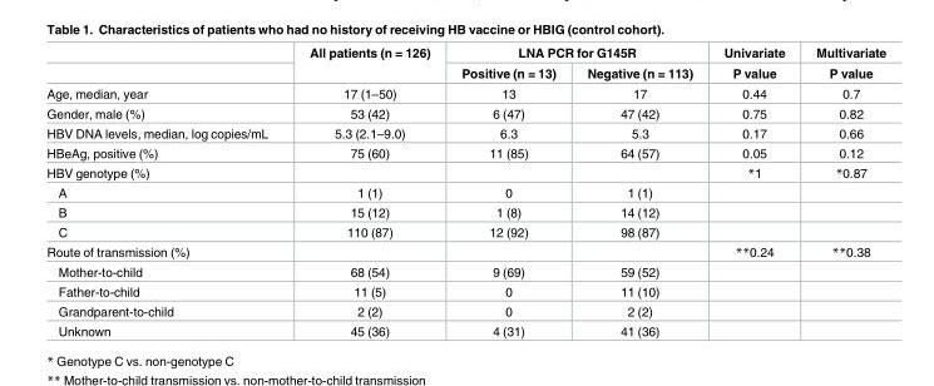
<table><thead><tr><td rowspan="2"></td><td rowspan="2">All patients (n = 126)</td><td colspan="2">LNA PCR for G145R</td><td rowspan="2">Univariate P value</td><td rowspan="2">Multivariate P value</td></tr><tr><td>Positive (n = 13)</td><td>Negative (n = 113)</td></tr></thead><tbody><tr><td>Age, median, year</td><td>17 (1–50)</td><td>13</td><td>17</td><td>0.44</td><td>0.7</td></tr><tr><td>Gender, male (%)</td><td>53 (42)</td><td>6 (47)</td><td>47 (42)</td><td>0.75</td><td>0.82</td></tr><tr><td>HBV DNA levels, median, log copies/mL</td><td>5.3 (2.1–9.0)</td><td>6.3</td><td>5.3</td><td>0.17</td><td>0.66</td></tr><tr><td>HBeAg, positive (%)</td><td>75 (60)</td><td>11 (85)</td><td>64 (57)</td><td>0.05</td><td>0.12</td></tr><tr><td>HBV genotype (%)</td><td></td><td></td><td></td><td>*1</td><td>*0.87</td></tr><tr><td>A</td><td>1 (1)</td><td>0</td><td>1 (1)</td><td></td><td></td></tr><tr><td>B</td><td>15 (12)</td><td>1 (8)</td><td>14 (12)</td><td></td><td></td></tr><tr><td>C</td><td>110 (87)</td><td>12 (92)</td><td>98 (87)</td><td></td><td></td></tr><tr><td>Route of transmission (%)</td><td></td><td></td><td></td><td>**0.24</td><td>**0.38</td></tr><tr><td>Mother-to-child</td><td>68 (54)</td><td>9 (69)</td><td>59 (52)</td><td></td><td></td></tr><tr><td>Father-to-child</td><td>11 (5)</td><td>0</td><td>11 (10)</td><td></td><td></td></tr><tr><td>Grandparent-to-child</td><td>2 (2)</td><td>0</td><td>2 (2)</td><td></td><td></td></tr><tr><td>Unknown</td><td>45 (36)</td><td>4 (31)</td><td>41 (36)</td><td></td><td></td></tr></tbody></table>